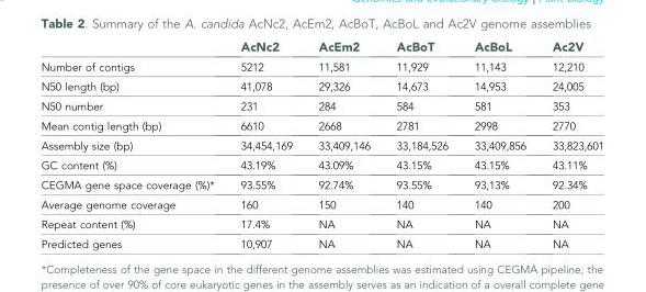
<table><thead><tr><td></td><td>AcNc2</td><td>AcEm2</td><td>AcBoT</td><td>AcBoL</td><td>Ac2V</td></tr></thead><tbody><tr><td>Number of contigs</td><td>5212</td><td>11,581</td><td>11,929</td><td>11,143</td><td>12,210</td></tr><tr><td>N50 length (bp)</td><td>41,078</td><td>29,326</td><td>14,673</td><td>14,953</td><td>24,005</td></tr><tr><td>N50 number</td><td>231</td><td>284</td><td>584</td><td>581</td><td>353</td></tr><tr><td>Mean contig length (bp)</td><td>6610</td><td>2668</td><td>2781</td><td>2998</td><td>2770</td></tr><tr><td>Assembly size (bp)</td><td>34,454,169</td><td>33,409,146</td><td>33,184,526</td><td>33,409,856</td><td>33,823,601</td></tr><tr><td>GC content (%)</td><td>43.19%</td><td>43.09%</td><td>43.15%</td><td>43.15%</td><td>43.11%</td></tr><tr><td>CEGMA gene space coverage (%)*</td><td>93.55%</td><td>92.74%</td><td>93.55%</td><td>93,13%</td><td>92.34%</td></tr><tr><td>Average genome coverage</td><td>160</td><td>150</td><td>140</td><td>140</td><td>200</td></tr><tr><td>Repeat content (%)</td><td>17.4%</td><td>NA</td><td>NA</td><td>NA</td><td>NA</td></tr><tr><td>Predicted genes</td><td>10,907</td><td>NA</td><td>NA</td><td>NA</td><td>NA</td></tr></tbody></table>